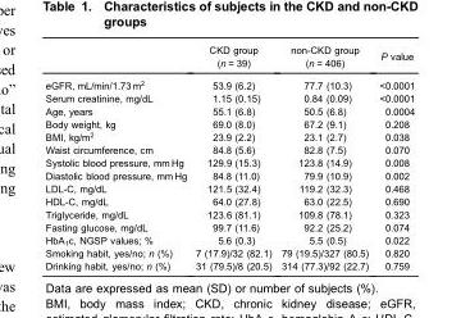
<table><thead><tr><td></td><td>CKD group (n = 39)</td><td>non-CKD group (n = 406)</td><td>P value</td></tr></thead><tbody><tr><td>eGFR, mL/min/1.73 m<sup>2</sup></td><td>53.9 (6.2)</td><td>77.7 (10.3)</td><td>&lt;0.0001</td></tr><tr><td>Serum creatinine, mg/dL</td><td>1.15 (0.15)</td><td>0.84 (0.09)</td><td>&lt;0.0001</td></tr><tr><td>Age, years</td><td>55.1 (6.8)</td><td>50.5 (6.8)</td><td>0.0004</td></tr><tr><td>Body weight, kg</td><td>69.0 (8.0)</td><td>67.2 (9.1)</td><td>0.208</td></tr><tr><td>BMI, kg/m<sup>2</sup></td><td>23.9 (2.2)</td><td>23.1 (2.7)</td><td>0.038</td></tr><tr><td>Waist circumference, cm</td><td>84.8 (5.6)</td><td>82.8 (7.5)</td><td>0.070</td></tr><tr><td>Systolic blood pressure, mm Hg</td><td>129.9 (15.3)</td><td>123.8 (14.9)</td><td>0.008</td></tr><tr><td>Diastolic blood pressure, mm Hg</td><td>84.8 (11.0)</td><td>79.9 (10.9)</td><td>0.002</td></tr><tr><td>LDL-C, mg/dL</td><td>121.5 (32.4)</td><td>119.2 (32.3)</td><td>0.468</td></tr><tr><td>HDL-C, mg/dL</td><td>64.0 (27.8)</td><td>63.0 (22.5)</td><td>0.690</td></tr><tr><td>Triglyceride, mg/dL</td><td>123.6 (81.1)</td><td>109.8 (78.1)</td><td>0.323</td></tr><tr><td>Fasting glucose, mg/dL</td><td>99.7 (11.6)</td><td>92.2 (25.2)</td><td>0.074</td></tr><tr><td>HbA<sub>1</sub>c, NGSP values; %</td><td>5.6 (0.3)</td><td>5.5 (0.5)</td><td>0.022</td></tr><tr><td>Smoking habit, yes/no; n (%)</td><td>7 (17.9)/32 (82.1)</td><td>79 (19.5)/327 (80.5)</td><td>0.820</td></tr><tr><td>Drinking habit, yes/no; n (%)</td><td>31 (79.5)/8 (20.5)</td><td>314 (77.3)/92 (22.7)</td><td>0.759</td></tr></tbody></table>